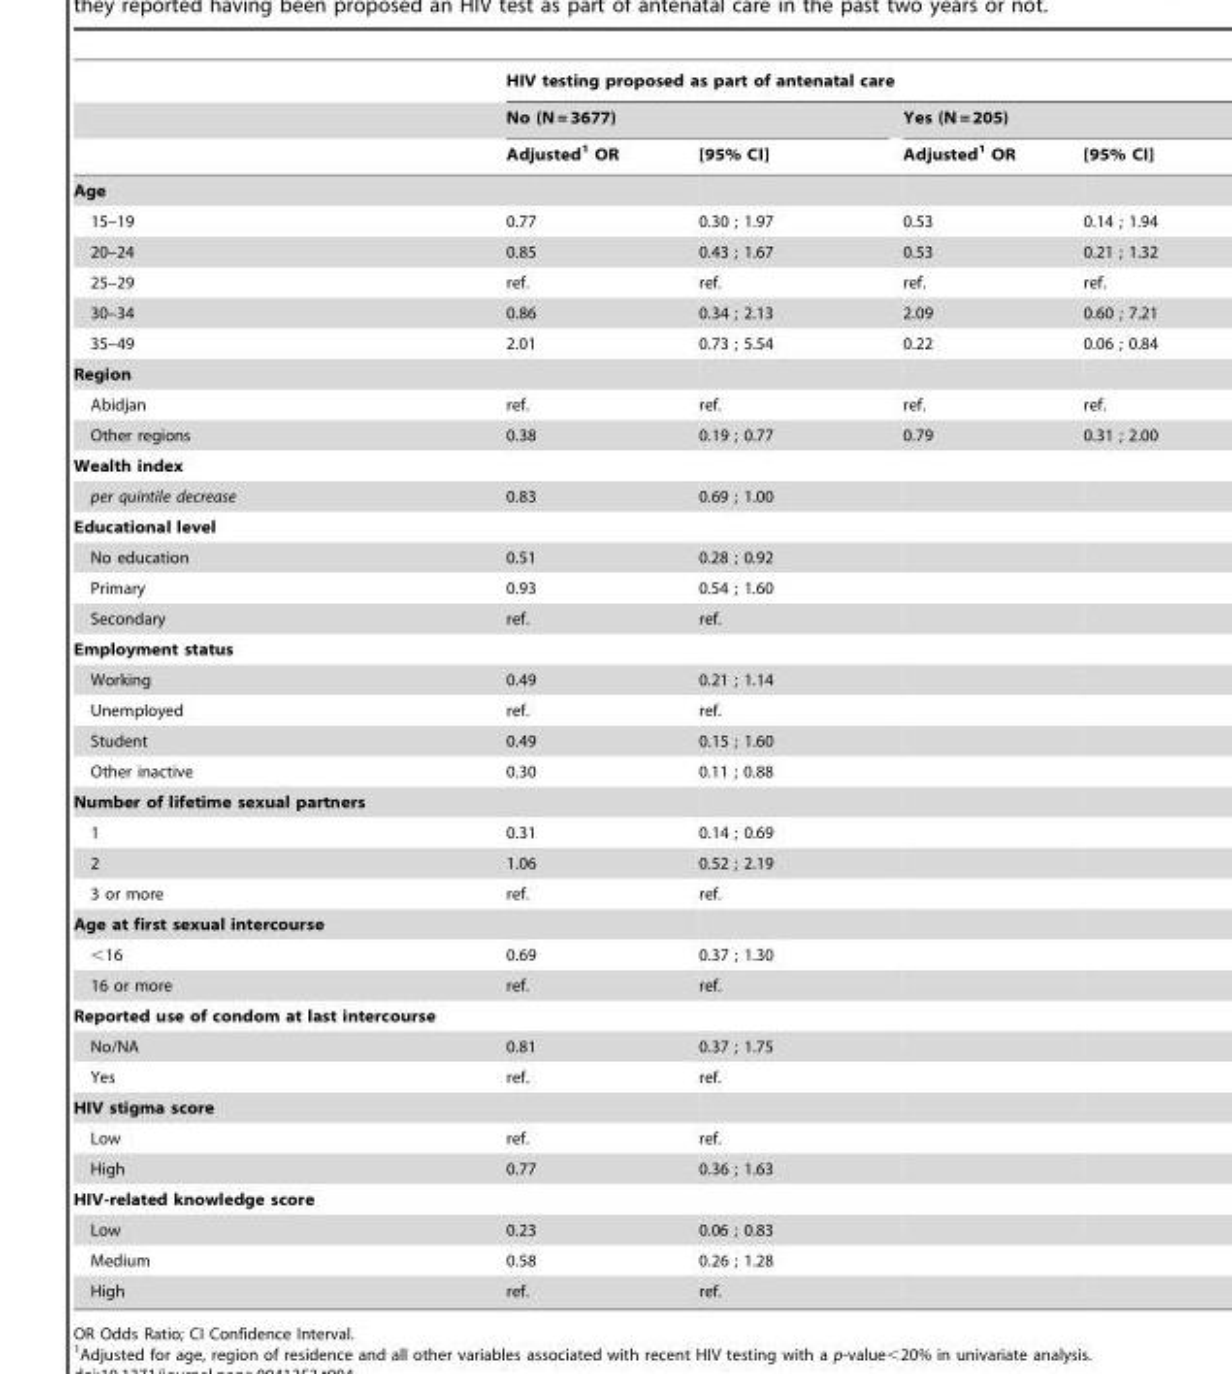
<table><thead><tr><td rowspan="3"></td><td colspan="4">HIV testing proposed as part of antenatal care</td></tr><tr><td colspan="2">No (N = 3677)</td><td colspan="2">Yes (N = 205)</td></tr><tr><td>Adjusted<sup>1</sup> OR</td><td>[95% CI]</td><td>Adjusted<sup>1</sup> OR</td><td>[95% CI]</td></tr></thead><tbody><tr><td colspan="5">Age</td></tr><tr><td>15–19</td><td>0.77</td><td>0.30 ; 1.97</td><td>0.53</td><td>0.14 ; 1.94</td></tr><tr><td>20–24</td><td>0.85</td><td>0.43 ; 1.67</td><td>0.53</td><td>0.21 ; 1.32</td></tr><tr><td>25–29</td><td>ref.</td><td>ref.</td><td>ref.</td><td>ref.</td></tr><tr><td>30–34</td><td>0.86</td><td>0.34 ; 2.13</td><td>2.09</td><td>0.60 ; 7.21</td></tr><tr><td>35–49</td><td>2.01</td><td>0.73 ; 5.54</td><td>0.22</td><td>0.06 ; 0.84</td></tr><tr><td colspan="5">Region</td></tr><tr><td>Abidjan</td><td>ref.</td><td>ref.</td><td>ref.</td><td>ref.</td></tr><tr><td>Other regions</td><td>0.38</td><td>0.19 ; 0.77</td><td>0.79</td><td>0.31 ; 2.00</td></tr><tr><td colspan="5">Wealth index</td></tr><tr><td>per quintile decrease</td><td>0.83</td><td>0.69 ; 1.00</td><td></td><td></td></tr><tr><td colspan="5">Educational level</td></tr><tr><td>No education</td><td>0.51</td><td>0.28 ; 0.92</td><td></td><td></td></tr><tr><td>Primary</td><td>0.93</td><td>0.54 ; 1.60</td><td></td><td></td></tr><tr><td>Secondary</td><td>ref.</td><td>ref.</td><td></td><td></td></tr><tr><td colspan="5">Employment status</td></tr><tr><td>Working</td><td>0.49</td><td>0.21 ; 1.14</td><td></td><td></td></tr><tr><td>Unemployed</td><td>ref.</td><td>ref.</td><td></td><td></td></tr><tr><td>Student</td><td>0.49</td><td>0.15 ; 1.60</td><td></td><td></td></tr><tr><td>Other inactive</td><td>0.30</td><td>0.11 ; 0.88</td><td></td><td></td></tr><tr><td colspan="5">Number of lifetime sexual partners</td></tr><tr><td>1</td><td>0.31</td><td>0.14 ; 0.69</td><td></td><td></td></tr><tr><td>2</td><td>1.06</td><td>0.52 ; 2.19</td><td></td><td></td></tr><tr><td>3 or more</td><td>ref.</td><td>ref.</td><td></td><td></td></tr><tr><td colspan="5">Age at first sexual intercourse</td></tr><tr><td>&lt;16</td><td>0.69</td><td>0.37 ; 1.30</td><td></td><td></td></tr><tr><td>16 or more</td><td>ref.</td><td>ref.</td><td></td><td></td></tr><tr><td colspan="5">Reported use of condom at last intercourse</td></tr><tr><td>No/NA</td><td>0.81</td><td>0.37 ; 1.75</td><td></td><td></td></tr><tr><td>Yes</td><td>ref.</td><td>ref.</td><td></td><td></td></tr><tr><td colspan="5">HIV stigma score</td></tr><tr><td>Low</td><td>ref.</td><td>ref.</td><td></td><td></td></tr><tr><td>High</td><td>0.77</td><td>0.36 ; 1.63</td><td></td><td></td></tr><tr><td colspan="5">HIV-related knowledge score</td></tr><tr><td>Low</td><td>0.23</td><td>0.06 ; 0.83</td><td></td><td></td></tr><tr><td>Medium</td><td>0.58</td><td>0.26 ; 1.28</td><td></td><td></td></tr><tr><td>High</td><td>ref.</td><td>ref.</td><td></td><td></td></tr></tbody></table>